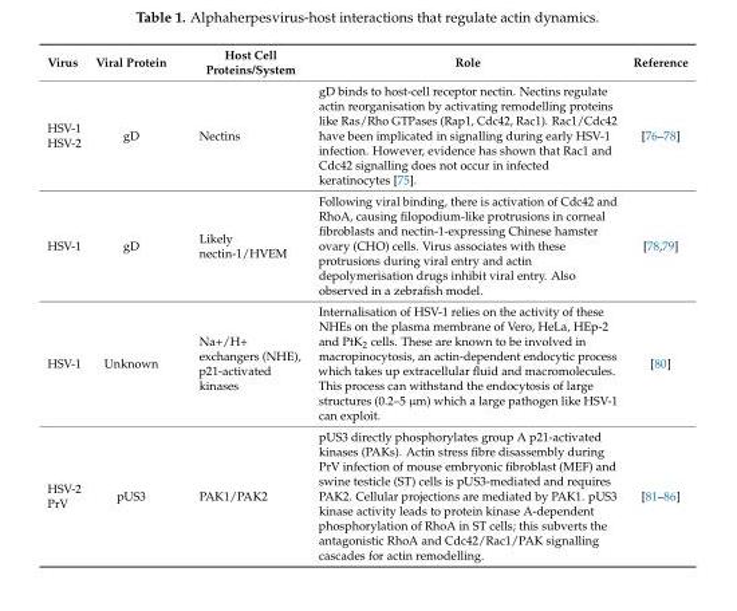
<table><thead><tr><td>Virus</td><td>Viral Protein</td><td>Host Cell Proteins/System</td><td>Role</td><td>Reference</td></tr></thead><tbody><tr><td>HSV-1 HSV-2</td><td>gD</td><td>Nectins</td><td>gD binds to host-cell receptor nectin. Nectins regulate actin reorganisation by activating remodelling proteins like Ras/Rho GTPases (Rap1, Cdc42, Rac1). Rac1/Cdc42 have been implicated in signalling during early HSV-1 infection. However, evidence has shown that Rac1 and Cdc42 signalling does not occur in infected keratinocytes [75].</td><td>[76–78]</td></tr><tr><td>HSV-1</td><td>gD</td><td>Likely nectin-1/HVEM</td><td>Following viral binding, there is activation of Cdc42 and RhoA, causing filopodium-like protrusions in corneal fibroblasts and nectin-1-expressing Chinese hamster ovary (CHO) cells. Virus associates with these protrusions during viral entry and actin depolymerisation drugs inhibit viral entry. Also observed in a zebrafish model.</td><td>[78,79]</td></tr><tr><td>HSV-1</td><td>Unknown</td><td>Na+/H+ exchangers (NHE), p21-activated kinases</td><td>Internalisation of HSV-1 relies on the activity of these NHEs on the plasma membrane of Vero, HeLa, HEp-2 and PtK<sub>2</sub> cells. These are known to be involved in macropinocytosis, an actin-dependent endocytic process which takes up extracellular fluid and macromolecules. This process can withstand the endocytosis of large structures (0.2–5 µm) which a large pathogen like HSV-1 can exploit.</td><td>[80]</td></tr><tr><td>HSV-2 PrV</td><td>pUS3</td><td>PAK1/PAK2</td><td>pUS3 directly phosphorylates group A p21-activated kinases (PAKs). Actin stress fibre disassembly during PrV infection of mouse embryonic fibroblast (MEF) and swine testicle (ST) cells is pUS3-mediated and requires PAK2. Cellular projections are mediated by PAK1. pUS3 kinase activity leads to protein kinase A-dependent phosphorylation of RhoA in ST cells; this subverts the antagonistic RhoA and Cdc42/Rac1/PAK signalling cascades for actin remodelling.</td><td>[81–86]</td></tr></tbody></table>